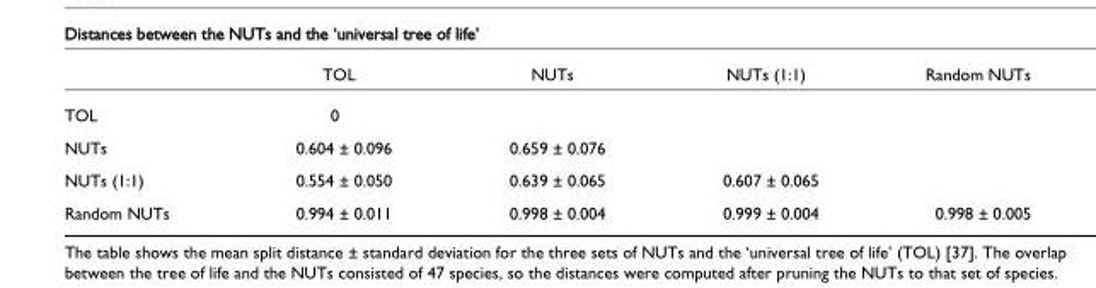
<table><thead><tr><td></td><td>TOL</td><td>NUTs</td><td>NUTs (1:1)</td><td>Random NUTs</td></tr></thead><tbody><tr><td>TOL</td><td>0</td><td></td><td></td><td></td></tr><tr><td>NUTs</td><td>0.604 ± 0.096</td><td>0.659 ± 0.076</td><td></td><td></td></tr><tr><td>NUTs (1:1)</td><td>0.554 ± 0.050</td><td>0.639 ± 0.065</td><td>0.607 ± 0.065</td><td></td></tr><tr><td>Random NUTs</td><td>0.994 ± 0.011</td><td>0.998 ± 0.004</td><td>0.999 ± 0.004</td><td>0.998 ± 0.005</td></tr></tbody></table>